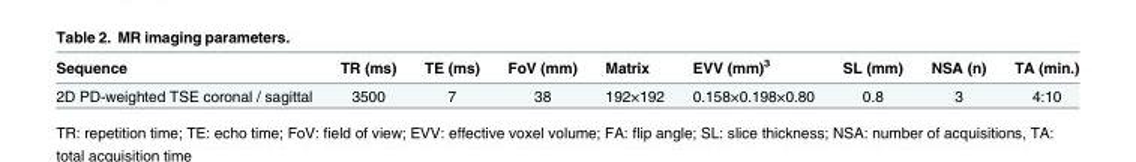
<table><thead><tr><td>Sequence</td><td>TR (ms)</td><td>TE (ms)</td><td>FoV (mm)</td><td>Matrix</td><td>EVV (mm)<sup>3</sup></td><td>SL (mm)</td><td>NSA (n)</td><td>TA (min.)</td></tr></thead><tbody><tr><td>2D PD-weighted TSE coronal / sagittal</td><td>3500</td><td>7</td><td>38</td><td>192×192</td><td>0.158×0.198×0.80</td><td>0.8</td><td>3</td><td>4:10</td></tr></tbody></table>